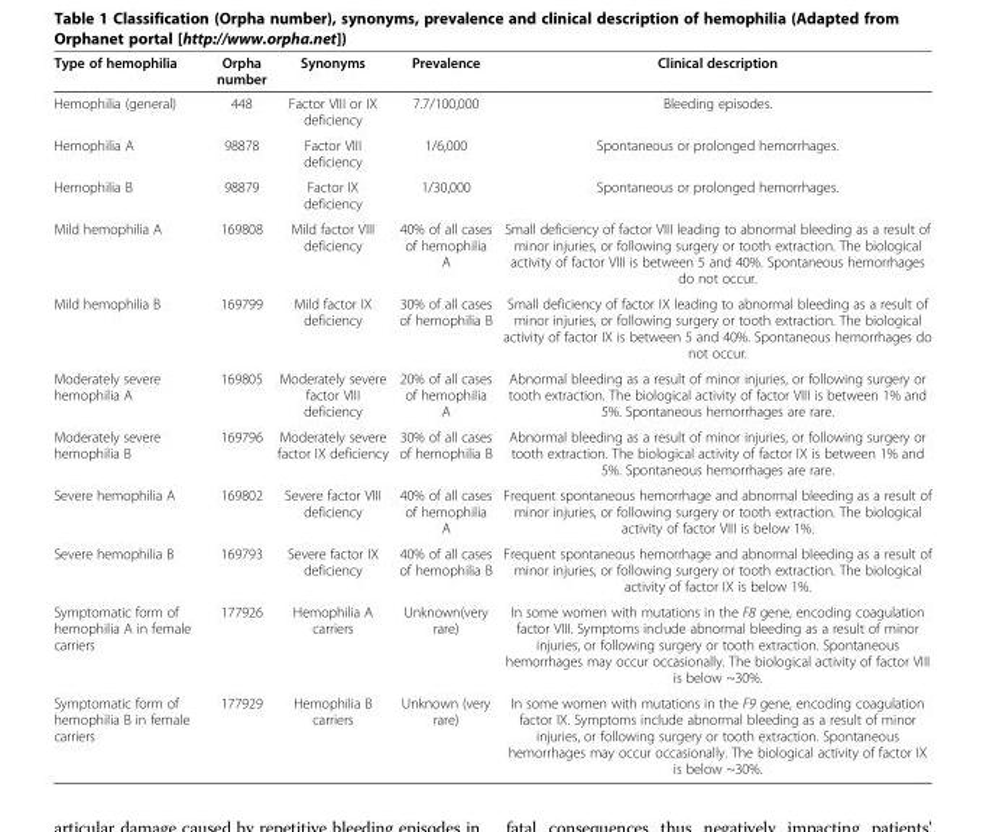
<table><thead><tr><td>Type of hemophilia</td><td>Orpha number</td><td>Synonyms</td><td>Prevalence</td><td>Clinical description</td></tr></thead><tbody><tr><td>Hemophilia (general)</td><td>448</td><td>Factor VIII or IX deficiency</td><td>7.7/100,000</td><td>Bleeding episodes.</td></tr><tr><td>Hemophilia A</td><td>98878</td><td>Factor VIII deficiency</td><td>1/6,000</td><td>Spontaneous or prolonged hemorrhages.</td></tr><tr><td>Hemophilia B</td><td>98879</td><td>Factor IX deficiency</td><td>1/30,000</td><td>Spontaneous or prolonged hemorrhages.</td></tr><tr><td>Mild hemophilia A</td><td>169808</td><td>Mild factor VIII deficiency</td><td>40% of all cases of hemophilia A</td><td>Small deficiency of factor VIII leading to abnormal bleeding as a result of minor injuries, or following surgery or tooth extraction. The biological activity of factor VIII is between 5 and 40%. Spontaneous hemorrhages do not occur.</td></tr><tr><td>Mild hemophilia B</td><td>169799</td><td>Mild factor IX deficiency</td><td>30% of all cases of hemophilia B</td><td>Small deficiency of factor IX leading to abnormal bleeding as a result of minor injuries, or following surgery or tooth extraction. The biological activity of factor IX is between 5 and 40%. Spontaneous hemorrhages do not occur.</td></tr><tr><td>Moderately severe hemophilia A</td><td>169805</td><td>Moderately severe factor VIII deficiency</td><td>20% of all cases of hemophilia A</td><td>Abnormal bleeding as a result of minor injuries, or following surgery or tooth extraction. The biological activity of factor VIII is between 1% and 5%. Spontaneous hemorrhages are rare.</td></tr><tr><td>Moderately severe hemophilia B</td><td>169796</td><td>Moderately severe factor IX deficiency</td><td>30% of all cases of hemophilia B</td><td>Abnormal bleeding as a result of minor injuries, or following surgery or tooth extraction. The biological activity of factor IX is between 1% and 5%. Spontaneous hemorrhages are rare.</td></tr><tr><td>Severe hemophilia A</td><td>169802</td><td>Severe factor VIII deficiency</td><td>40% of all cases of hemophilia A</td><td>Frequent spontaneous hemorrhage and abnormal bleeding as a result of minor injuries, or following surgery or tooth extraction. The biological activity of factor VIII is below 1%.</td></tr><tr><td>Severe hemophilia B</td><td>169793</td><td>Severe factor IX deficiency</td><td>40% of all cases of hemophilia B</td><td>Frequent spontaneous hemorrhage and abnormal bleeding as a result of minor injuries, or following surgery or tooth extraction. The biological activity of factor IX is below 1%.</td></tr><tr><td>Symptomatic form of hemophilia A in female carriers</td><td>177926</td><td>Hemophilia A carriers</td><td>Unknown(very rare)</td><td>In some women with mutations in the F8 gene, encoding coagulation factor VIII. Symptoms include abnormal bleeding as a result of minor injuries, or following surgery or tooth extraction. Spontaneous hemorrhages may occur occasionally. The biological activity of factor VIII is below ~30%.</td></tr><tr><td>Symptomatic form of hemophilia B in female carriers</td><td>177929</td><td>Hemophilia B carriers</td><td>Unknown (very rare)</td><td>In some women with mutations in the F9 gene, encoding coagulation factor IX. Symptoms include abnormal bleeding as a result of minor injuries, or following surgery or tooth extraction. Spontaneous hemorrhages may occur occasionally. The biological activity of factor IX is below ~30%.</td></tr></tbody></table>